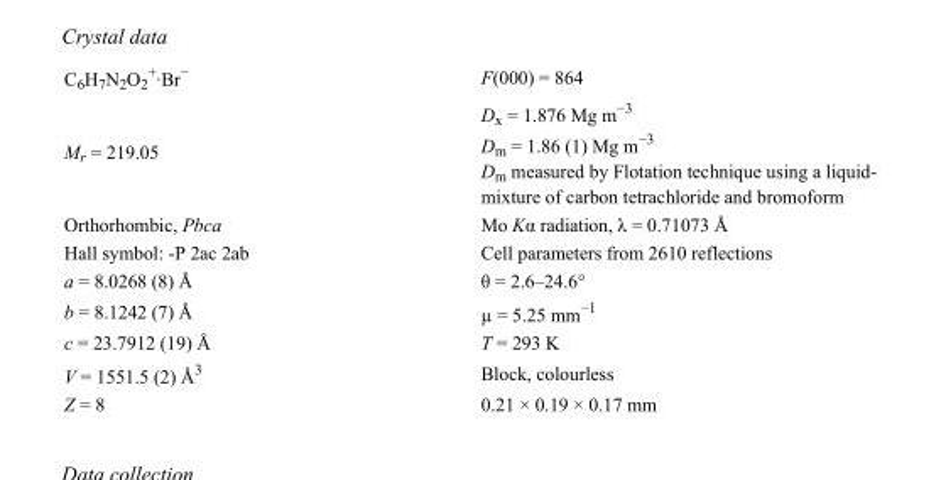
<table><tbody><tr><td>C<sub>6</sub>H<sub>7</sub>N<sub>2</sub>O<sub>2</sub> <sup>+</sup>·Br<sup>−</sup></td><td>F(000) = 864</td></tr><tr><td>M<sub>r</sub> = 219.05</td><td>D<sub>x</sub> = 1.876 Mg m<sup>−3</sup> D<sub>m</sub> = 1.86 (1) Mg m<sup>−3</sup> D<sub>m</sub> measured by Flotation technique using a liquid- mixture of carbon tetrachloride and bromoform</td></tr><tr><td>Orthorhombic, Pbca</td><td>Mo Kα radiation, λ = 0.71073 Å</td></tr><tr><td>Hall symbol: -P 2ac 2ab</td><td>Cell parameters from 2610 reflections</td></tr><tr><td>a = 8.0268 (8) Å</td><td>θ = 2.6–24.6°</td></tr><tr><td>b = 8.1242 (7) Å</td><td>µ = 5.25 mm<sup>−1</sup></td></tr><tr><td>c = 23.7912 (19) Å</td><td>T = 293 K</td></tr><tr><td>V = 1551.5 (2) Å<sup>3</sup></td><td>Block, colourless</td></tr><tr><td>Z = 8</td><td>0.21 × 0.19 × 0.17 mm</td></tr></tbody></table>